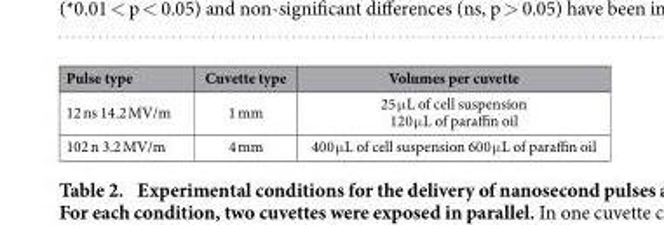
<table><thead><tr><td>Pulse type</td><td>Cuvette type</td><td>Volumes per cuvette</td></tr></thead><tbody><tr><td>12 ns 14.2 MV/m</td><td>1 mm</td><td>25 μ L of cell suspension 120 μ L of paraffin oil</td></tr><tr><td>102 n 3.2 MV/m</td><td>4 mm</td><td>400 μ L of cell suspension 600 μ L of paraffin oil</td></tr></tbody></table>